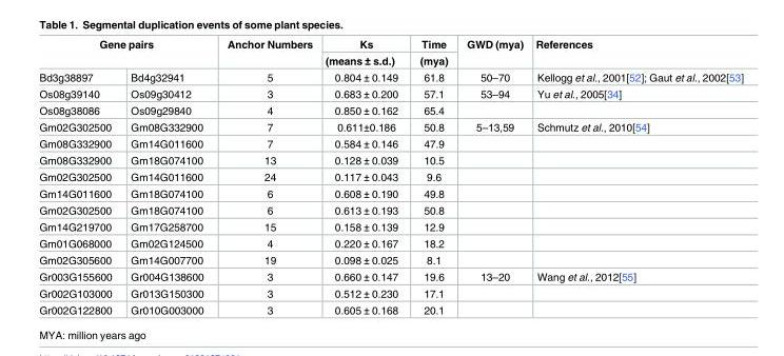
<table><thead><tr><td rowspan="2" colspan="2">Gene pairs</td><td rowspan="3">Anchor Numbers 5</td><td rowspan="3">Ks (means ± s.d.) 0.804 ± 0.149</td><td rowspan="3">Time (mya) 61.8</td><td rowspan="3">GWD (mya) 50–70</td><td rowspan="3">References Kellogg et al., 2001[52]; Gaut et al., 2002[53]</td></tr><tr></tr><tr><td>Bd3g38897</td><td>Bd4g32941</td></tr></thead><tbody><tr><td>Os08g39140</td><td>Os09g30412</td><td>3</td><td>0.683 ± 0.200</td><td>57.1</td><td>53–94</td><td>Yu et al., 2005[34]</td></tr><tr><td>Os08g38086</td><td>Os09g29840</td><td>4</td><td>0.850 ± 0.162</td><td>65.4</td><td></td><td></td></tr><tr><td>Gm02G302500</td><td>Gm08G332900</td><td>7</td><td>0.611±0.186</td><td>50.8</td><td>5–13,59</td><td>Schmutz et al., 2010[54]</td></tr><tr><td>Gm08G332900</td><td>Gm14G011600</td><td>7</td><td>0.584 ± 0.146</td><td>47.9</td><td></td><td></td></tr><tr><td>Gm08G332900</td><td>Gm18G074100</td><td>13</td><td>0.128 ± 0.039</td><td>10.5</td><td></td><td></td></tr><tr><td>Gm02G302500</td><td>Gm14G011600</td><td>24</td><td>0.117 ± 0.043</td><td>9.6</td><td></td><td></td></tr><tr><td>Gm14G011600</td><td>Gm18G074100</td><td>6</td><td>0.608 ± 0.190</td><td>49.8</td><td></td><td></td></tr><tr><td>Gm02G302500</td><td>Gm18G074100</td><td>6</td><td>0.613 ± 0.193</td><td>50.8</td><td></td><td></td></tr><tr><td>Gm14G219700</td><td>Gm17G258700</td><td>15</td><td>0.158 ± 0.139</td><td>12.9</td><td></td><td></td></tr><tr><td>Gm01G068000</td><td>Gm02G124500</td><td>4</td><td>0.220 ± 0.167</td><td>18.2</td><td></td><td></td></tr><tr><td>Gm02G305600</td><td>Gm14G007700</td><td>19</td><td>0.098 ± 0.025</td><td>8.1</td><td></td><td></td></tr><tr><td>Gr003G155600</td><td>Gr004G138600</td><td>3</td><td>0.660 ± 0.147</td><td>19.6</td><td>13–20</td><td>Wang et al., 2012[55]</td></tr><tr><td>Gr002G103000</td><td>Gr013G150300</td><td>3</td><td>0.512 ± 0.230</td><td>17.1</td><td></td><td></td></tr><tr><td>Gr002G122800</td><td>Gr010G003000</td><td>3</td><td>0.605 ± 0.168</td><td>20.1</td><td></td><td></td></tr></tbody></table>